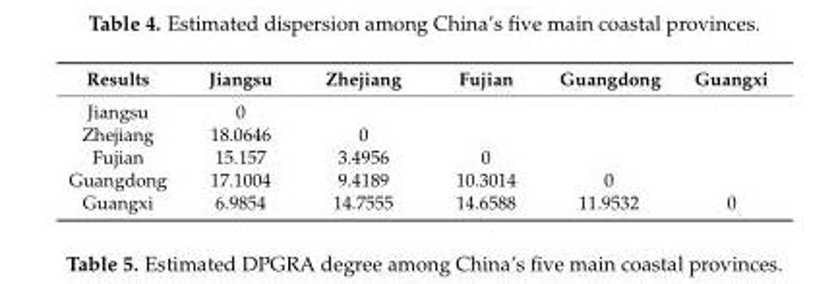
<table><thead><tr><td>Results</td><td>Jiangsu</td><td>Zhejiang</td><td>Fujian</td><td>Guangdong</td><td>Guangxi</td></tr></thead><tbody><tr><td>Jiangsu</td><td>0</td><td></td><td></td><td></td><td></td></tr><tr><td>Zhejiang</td><td>18.0646</td><td>0</td><td></td><td></td><td></td></tr><tr><td>Fujian</td><td>15.157</td><td>3.4956</td><td>0</td><td></td><td></td></tr><tr><td>Guangdong</td><td>17.1004</td><td>9.4189</td><td>10.3014</td><td>0</td><td></td></tr><tr><td>Guangxi</td><td>6.9854</td><td>14.7555</td><td>14.6588</td><td>11.9532</td><td>0</td></tr></tbody></table>